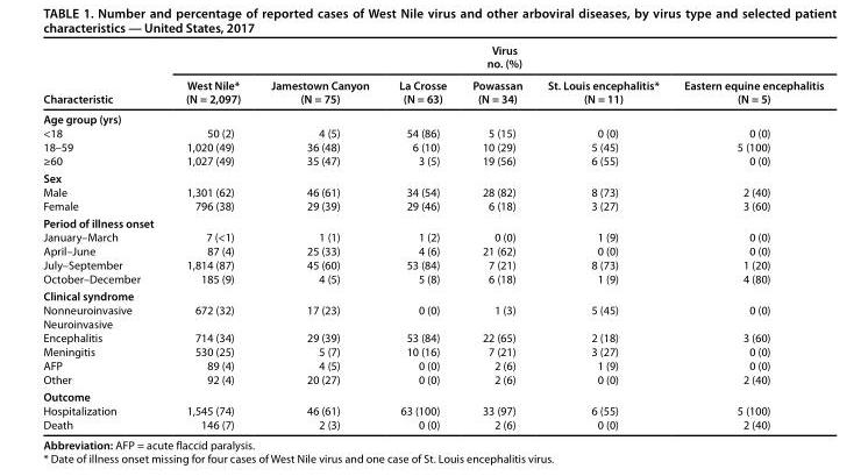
<table><thead><tr><td rowspan="2">Characteristic</td><td colspan="6">Virus no. (%)</td></tr><tr><td>West Nile* (N = 2,097)</td><td>Jamestown Canyon (N = 75)</td><td>La Crosse (N = 63)</td><td>Powassan (N = 34)</td><td>St. Louis encephalitis* (N = 11)</td><td>Eastern equine encephalitis (N = 5)</td></tr></thead><tbody><tr><td colspan="7">Age group (yrs)</td></tr><tr><td>&lt;18</td><td>50 (2)</td><td>4 (5)</td><td>54 (86)</td><td>5 (15)</td><td>0 (0)</td><td>0 (0)</td></tr><tr><td>18–59</td><td>1,020 (49)</td><td>36 (48)</td><td>6 (10)</td><td>10 (29)</td><td>5 (45)</td><td>5 (100)</td></tr><tr><td>≥60</td><td>1,027 (49)</td><td>35 (47)</td><td>3 (5)</td><td>19 (56)</td><td>6 (55)</td><td>0 (0)</td></tr><tr><td colspan="7">Sex</td></tr><tr><td>Male</td><td>1,301 (62)</td><td>46 (61)</td><td>34 (54)</td><td>28 (82)</td><td>8 (73)</td><td>2 (40)</td></tr><tr><td>Female</td><td>796 (38)</td><td>29 (39)</td><td>29 (46)</td><td>6 (18)</td><td>3 (27)</td><td>3 (60)</td></tr><tr><td colspan="7">Period of illness onset</td></tr><tr><td>January–March</td><td>7 (&lt;1)</td><td>1 (1)</td><td>1 (2)</td><td>0 (0)</td><td>1 (9)</td><td>0 (0)</td></tr><tr><td>April–June</td><td>87 (4)</td><td>25 (33)</td><td>4 (6)</td><td>21 (62)</td><td>0 (0)</td><td>0 (0)</td></tr><tr><td>July–September</td><td>1,814 (87)</td><td>45 (60)</td><td>53 (84)</td><td>7 (21)</td><td>8 (73)</td><td>1 (20)</td></tr><tr><td>October–December</td><td>185 (9)</td><td>4 (5)</td><td>5 (8)</td><td>6 (18)</td><td>1 (9)</td><td>4 (80)</td></tr><tr><td colspan="7">Clinical syndrome</td></tr><tr><td>Nonneuroinvasive</td><td>672 (32)</td><td>17 (23)</td><td>0 (0)</td><td>1 (3)</td><td>5 (45)</td><td>0 (0)</td></tr><tr><td colspan="7">Neuroinvasive</td></tr><tr><td>Encephalitis</td><td>714 (34)</td><td>29 (39)</td><td>53 (84)</td><td>22 (65)</td><td>2 (18)</td><td>3 (60)</td></tr><tr><td>Meningitis</td><td>530 (25)</td><td>5 (7)</td><td>10 (16)</td><td>7 (21)</td><td>3 (27)</td><td>0 (0)</td></tr><tr><td>AFP</td><td>89 (4)</td><td>4 (5)</td><td>0 (0)</td><td>2 (6)</td><td>1 (9)</td><td>0 (0)</td></tr><tr><td>Other</td><td>92 (4)</td><td>20 (27)</td><td>0 (0)</td><td>2 (6)</td><td>0 (0)</td><td>2 (40)</td></tr><tr><td colspan="7">Outcome</td></tr><tr><td>Hospitalization</td><td>1,545 (74)</td><td>46 (61)</td><td>63 (100)</td><td>33 (97)</td><td>6 (55)</td><td>5 (100)</td></tr><tr><td>Death</td><td>146 (7)</td><td>2 (3)</td><td>0 (0)</td><td>2 (6)</td><td>0 (0)</td><td>2 (40)</td></tr></tbody></table>